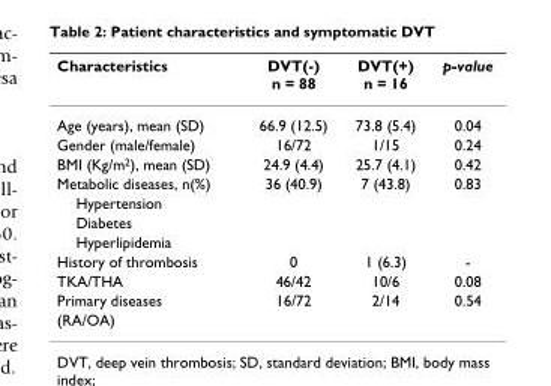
<table><thead><tr><td>Characteristics</td><td>DVT(-) n = 88</td><td>DVT(+) n = 16</td><td>p-value</td></tr></thead><tbody><tr><td>Age (years), mean (SD)</td><td>66.9 (12.5)</td><td>73.8 (5.4)</td><td>0.04</td></tr><tr><td>Gender (male/female)</td><td>16/72</td><td>1/15</td><td>0.24</td></tr><tr><td>BMI (Kg/m<sup>2</sup>), mean (SD)</td><td>24.9 (4.4)</td><td>25.7 (4.1)</td><td>0.42</td></tr><tr><td>Metabolic diseases, n(%)</td><td>36 (40.9)</td><td>7 (43.8)</td><td>0.83</td></tr><tr><td colspan="4">Hypertension</td></tr><tr><td colspan="4">Diabetes</td></tr><tr><td colspan="4">Hyperlipidemia</td></tr><tr><td>History of thrombosis</td><td>0</td><td>1 (6.3)</td><td>-</td></tr><tr><td>TKA/THA</td><td>46/42</td><td>10/6</td><td>0.08</td></tr><tr><td>Primary diseases</td><td>16/72</td><td>2/14</td><td>0.54</td></tr><tr><td>(RA/OA)</td><td></td><td></td><td></td></tr></tbody></table>